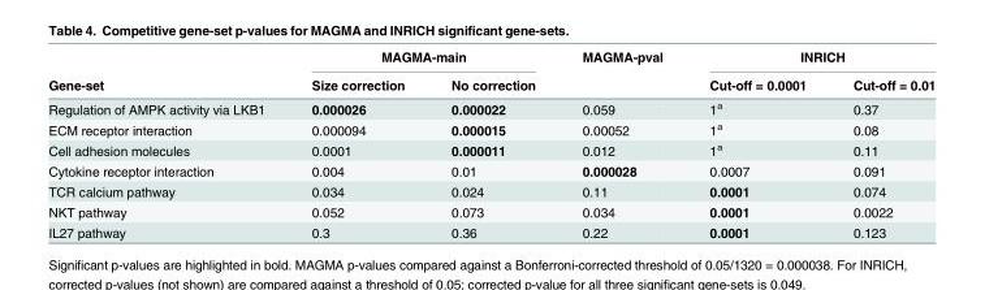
<table><thead><tr><td rowspan="2">Gene-set</td><td colspan="2">MAGMA-main</td><td rowspan="2">MAGMA-pval</td><td colspan="2">INRICH</td></tr><tr><td>Size correction</td><td>No correction</td><td>Cut-off = 0.0001</td><td>Cut-off = 0.01</td></tr></thead><tbody><tr><td>Regulation of AMPK activity via LKB1</td><td>0.000026</td><td>0.000022</td><td>0.059</td><td>1<sup>a</sup></td><td>0.37</td></tr><tr><td>ECM receptor interaction</td><td>0.000094</td><td>0.000015</td><td>0.00052</td><td>1<sup>a</sup></td><td>0.08</td></tr><tr><td>Cell adhesion molecules</td><td>0.0001</td><td>0.000011</td><td>0.012</td><td>1<sup>a</sup></td><td>0.11</td></tr><tr><td>Cytokine receptor interaction</td><td>0.004</td><td>0.01</td><td>0.000028</td><td>0.0007</td><td>0.091</td></tr><tr><td>TCR calcium pathway</td><td>0.034</td><td>0.024</td><td>0.11</td><td>0.0001</td><td>0.074</td></tr><tr><td>NKT pathway</td><td>0.052</td><td>0.073</td><td>0.034</td><td>0.0001</td><td>0.0022</td></tr><tr><td>IL27 pathway</td><td>0.3</td><td>0.36</td><td>0.22</td><td>0.0001</td><td>0.123</td></tr></tbody></table>